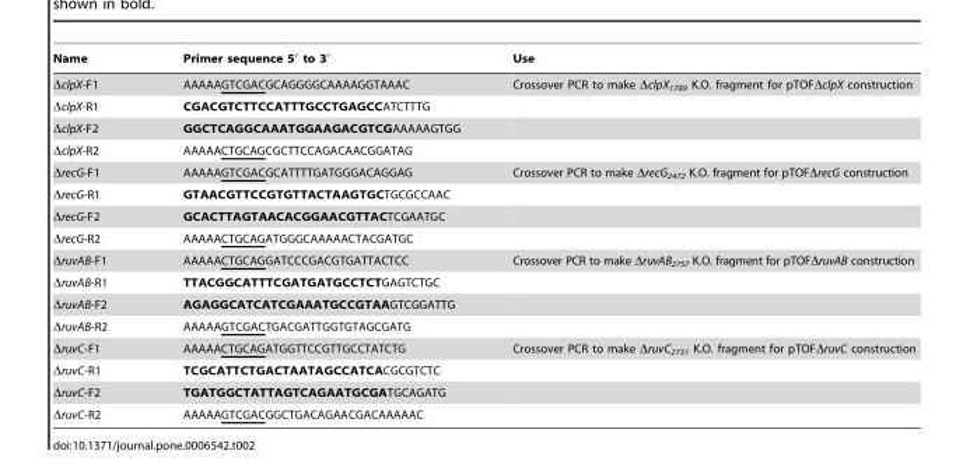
<table><thead><tr><td>Name</td><td>Primer sequence 5′ to 3′</td><td>Use</td></tr></thead><tbody><tr><td>ΔclpX-F1</td><td>AAAAAGTCGACGCAGGGGCAAAAGGTAAAC</td><td>Crossover PCR to make ΔclpX<sub>1789</sub> K.O. fragment for pTOFΔclpX construction</td></tr><tr><td>ΔclpX-R1</td><td>CGACGTCTTCCATTTGCCTGAGCCATCTTTG</td><td></td></tr><tr><td>ΔclpX-F2</td><td>GGCTCAGGCAAATGGAAGACGTCGAAAAAGTGG</td><td></td></tr><tr><td>ΔclpX-R2</td><td>AAAAACTGCAGCGCTTCCAGACAACGGATAG</td><td></td></tr><tr><td>ΔrecG-F1</td><td>AAAAAGTCGACGCATTTTGATGGGACAGGAG</td><td>Crossover PCR to make ΔrecG<sub>2472</sub> K.O. fragment for pTOFΔrecG construction</td></tr><tr><td>ΔrecG-R1</td><td>GTAACGTTCCGTGTTACTAAGTGCTGCGCCAAC</td><td></td></tr><tr><td>ΔrecG-F2</td><td>GCACTTAGTAACACGGAACGTTACTCGAATGC</td><td></td></tr><tr><td>ΔrecG-R2</td><td>AAAAACTGCAGATGGGCAAAAACTACGATGC</td><td></td></tr><tr><td>ΔruvAB-F1</td><td>AAAAACTGCAGGATCCCGACGTGATTACTCC</td><td>Crossover PCR to make ΔruvAB<sub>2757</sub> K.O. fragment for pTOFΔruvAB construction</td></tr><tr><td>ΔruvAB-R1</td><td>TTACGGCATTTCGATGATGCCTCTGAGTCTGC</td><td></td></tr><tr><td>ΔruvAB-F2</td><td>AGAGGCATCATCGAAATGCCGTAAGTCGGATTG</td><td></td></tr><tr><td>ΔruvAB-R2</td><td>AAAAAGTCGACTGACGATTGGTGTAGCGATG</td><td></td></tr><tr><td>ΔruvC-F1</td><td>AAAAACTGCAGATGGTTCCGTTGCCTATCTG</td><td>Crossover PCR to make ΔruvC<sub>2731</sub> K.O. fragment for pTOFΔruvC construction</td></tr><tr><td>ΔruvC-R1</td><td>TCGCATTCTGACTAATAGCCATCACGCGTCTC</td><td></td></tr><tr><td>ΔruvC-F2</td><td>TGATGGCTATTAGTCAGAATGCGATGCAGATG</td><td></td></tr><tr><td>ΔruvC-R2</td><td>AAAAAGTCGACGGCTGACAGAACGACAAAAAC</td><td></td></tr></tbody></table>